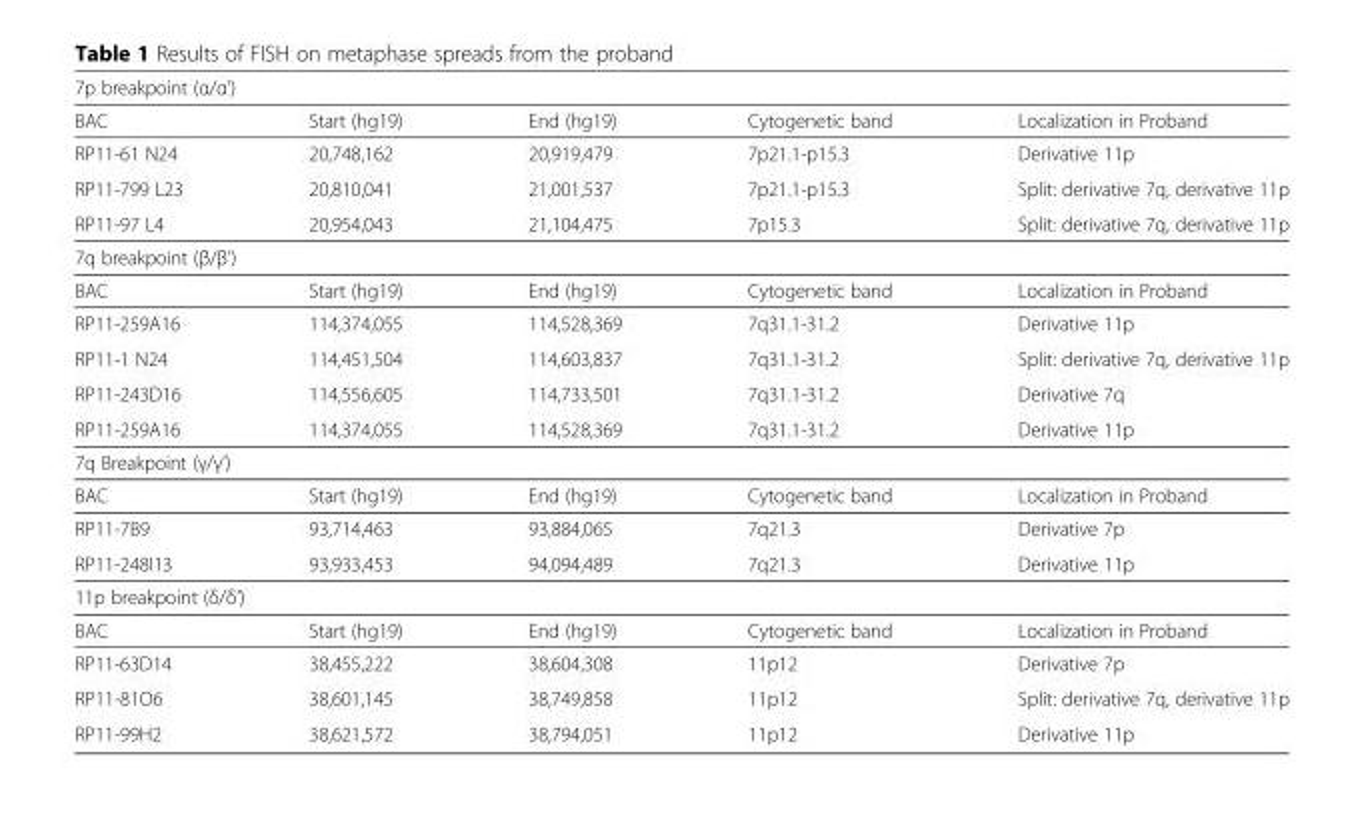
<table><tbody><tr><td colspan="5">7p breakpoint (α/α’)</td></tr><tr><td>BAC</td><td>Start (hg19)</td><td>End (hg19)</td><td>Cytogenetic band</td><td>Localization in Proband</td></tr><tr><td>RP11-61 N24</td><td>20,748,162</td><td>20,919,479</td><td>7p21.1-p15.3</td><td>Derivative 11p</td></tr><tr><td>RP11-799 L23</td><td>20,810,041</td><td>21,001,537</td><td>7p21.1-p15.3</td><td>Split: derivative 7q, derivative 11p</td></tr><tr><td>RP11-97 L4</td><td>20,954,043</td><td>21,104,475</td><td>7p15.3</td><td>Split: derivative 7q, derivative 11p</td></tr><tr><td colspan="5">7q breakpoint (β/β’)</td></tr><tr><td>BAC</td><td>Start (hg19)</td><td>End (hg19)</td><td>Cytogenetic band</td><td>Localization in Proband</td></tr><tr><td>RP11-259A16</td><td>114,374,055</td><td>114,528,369</td><td>7q31.1-31.2</td><td>Derivative 11p</td></tr><tr><td>RP11-1 N24</td><td>114,451,504</td><td>114,603,837</td><td>7q31.1-31.2</td><td>Split: derivative 7q, derivative 11p</td></tr><tr><td>RP11-243D16</td><td>114,556,605</td><td>114,733,501</td><td>7q31.1-31.2</td><td>Derivative 7q</td></tr><tr><td>RP11-259A16</td><td>114,374,055</td><td>114,528,369</td><td>7q31.1-31.2</td><td>Derivative 11p</td></tr><tr><td colspan="5">7q Breakpoint (γ/γ’)</td></tr><tr><td>BAC</td><td>Start (hg19)</td><td>End (hg19)</td><td>Cytogenetic band</td><td>Localization in Proband</td></tr><tr><td>RP11-7B9</td><td>93,714,463</td><td>93,884,065</td><td>7q21.3</td><td>Derivative 7p</td></tr><tr><td>RP11-248I13</td><td>93,933,453</td><td>94,094,489</td><td>7q21.3</td><td>Derivative 11p</td></tr><tr><td colspan="5">11p breakpoint (δ/δ’)</td></tr><tr><td>BAC</td><td>Start (hg19)</td><td>End (hg19)</td><td>Cytogenetic band</td><td>Localization in Proband</td></tr><tr><td>RP11-63D14</td><td>38,455,222</td><td>38,604,308</td><td>11p12</td><td>Derivative 7p</td></tr><tr><td>RP11-81O6</td><td>38,601,145</td><td>38,749,858</td><td>11p12</td><td>Split: derivative 7q, derivative 11p</td></tr><tr><td>RP11-99H2</td><td>38,621,572</td><td>38,794,051</td><td>11p12</td><td>Derivative 11p</td></tr></tbody></table>